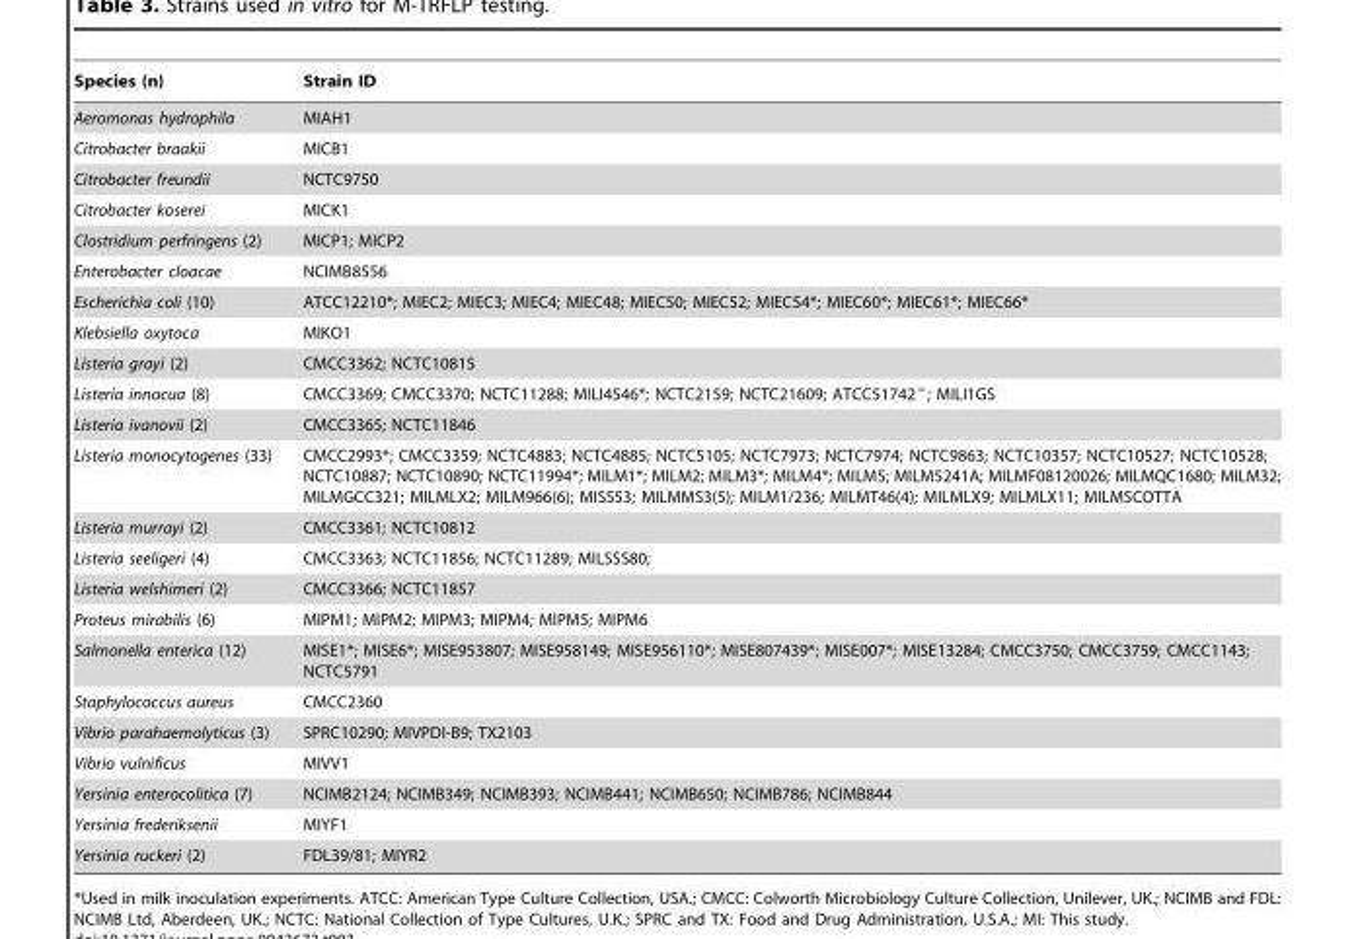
<table><thead><tr><td>Species (n)</td><td>Strain ID</td></tr></thead><tbody><tr><td>Aeromonas hydrophila</td><td>MIAH1</td></tr><tr><td>Citrobacter braakii</td><td>MICB1</td></tr><tr><td>Citrobacter freundii</td><td>NCTC9750</td></tr><tr><td>Citrobacter koserei</td><td>MICK1</td></tr><tr><td>Clostridium perfringens (2)</td><td>MICP1; MICP2</td></tr><tr><td>Enterobacter cloacae</td><td>NCIMB8556</td></tr><tr><td>Escherichia coli (10)</td><td>ATCC12210*; MIEC2; MIEC3; MIEC4; MIEC48; MIEC50; MIEC52; MIEC54*; MIEC60*; MIEC61*; MIEC66*</td></tr><tr><td>Klebsiella oxytoca</td><td>MIKO1</td></tr><tr><td>Listeria grayi (2)</td><td>CMCC3362; NCTC10815</td></tr><tr><td>Listeria innocua (8)</td><td>CMCC3369; CMCC3370; NCTC11288; MILI4546*; NCTC2159; NCTC21609; ATCC51742 <sup>=</sup>; MILI1GS</td></tr><tr><td>Listeria ivanovii (2)</td><td>CMCC3365; NCTC11846</td></tr><tr><td>Listeria monocytogenes (33)</td><td>CMCC2993*; CMCC3359; NCTC4883; NCTC4885; NCTC5105; NCTC7973; NCTC7974; NCTC9863; NCTC10357; NCTC10527; NCTC10528; NCTC10887; NCTC10890; NCTC11994*; MILM1*; MILM2; MILM3*; MILM4*; MILM5; MILM5241A; MILMF08120026; MILMQC1680; MILM32; MILMGCC321; MILMLX2; MILM966(6); MISS53; MILMMS3(5); MILM1/236; MILMT46(4); MILMLX9; MILMLX11; MILMSCOTTA</td></tr><tr><td>Listeria murrayi (2)</td><td>CMCC3361; NCTC10812</td></tr><tr><td>Listeria seeligeri (4)</td><td>CMCC3363; NCTC11856; NCTC11289; MILSSS80;</td></tr><tr><td>Listeria welshimeri (2)</td><td>CMCC3366; NCTC11857</td></tr><tr><td>Proteus mirabilis (6)</td><td>MIPM1; MIPM2; MIPM3; MIPM4; MIPM5; MIPM6</td></tr><tr><td>Salmonella enterica (12)</td><td>MISE1*; MISE6*; MISE953807; MISE958149; MISE956110*; MISE807439*; MISE007*; MISE13284; CMCC3750; CMCC3759; CMCC1143; NCTC5791</td></tr><tr><td>Staphylococcus aureus</td><td>CMCC2360</td></tr><tr><td>Vibrio parahaemolyticus (3)</td><td>SPRC10290; MIVPDI-B9; TX2103</td></tr><tr><td>Vibrio vulnificus</td><td>MIVV1</td></tr><tr><td>Yersinia enterocolitica (7)</td><td>NCIMB2124; NCIMB349; NCIMB393; NCIMB441; NCIMB650; NCIMB786; NCIMB844</td></tr><tr><td>Yersinia frederiksenii</td><td>MIYF1</td></tr><tr><td>Yersinia ruckeri (2)</td><td>FDL39/81; MIYR2</td></tr></tbody></table>